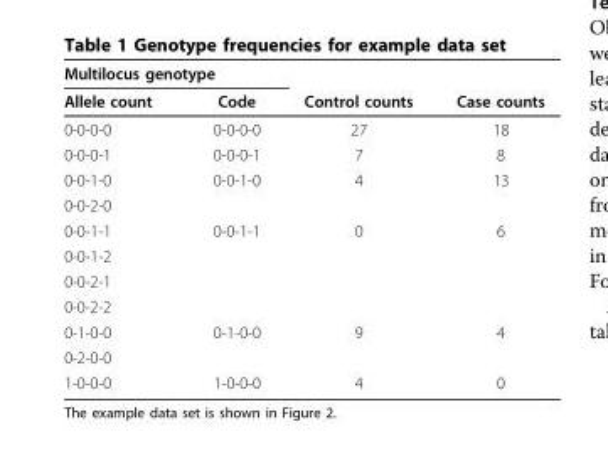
<table><thead><tr><td colspan="2">Multilocus genotype</td><td rowspan="2">Control counts</td><td rowspan="2">Case counts</td></tr><tr><td>Allele count</td><td>Code</td></tr></thead><tbody><tr><td>0-0-0-0</td><td>0-0-0-0</td><td>27</td><td>18</td></tr><tr><td>0-0-0-1</td><td>0-0-0-1</td><td>7</td><td>8</td></tr><tr><td>0-0-1-0</td><td>0-0-1-0</td><td>4</td><td>13</td></tr><tr><td colspan="4">0-0-2-0</td></tr><tr><td>0-0-1-1</td><td>0-0-1-1</td><td>0</td><td>6</td></tr><tr><td colspan="4">0-0-1-2</td></tr><tr><td colspan="4">0-0-2-1</td></tr><tr><td colspan="4">0-0-2-2</td></tr><tr><td>0-1-0-0</td><td>0-1-0-0</td><td>9</td><td>4</td></tr><tr><td colspan="4">0-2-0-0</td></tr><tr><td>1-0-0-0</td><td>1-0-0-0</td><td>4</td><td>0</td></tr></tbody></table>